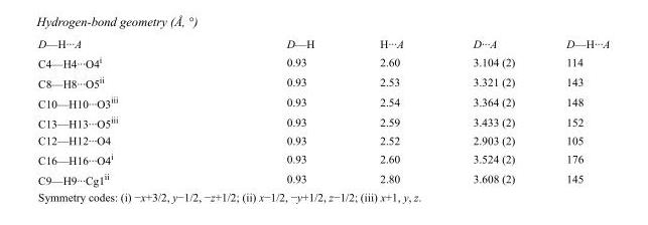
<table><tbody><tr><td>D—H···A</td><td>D—H</td><td>H···A</td><td>D···A</td><td>D—H···A</td></tr><tr><td>C4—H4···O4<sup>i</sup></td><td>0.93</td><td>2.60</td><td>3.104 (2)</td><td>114</td></tr><tr><td>C8—H8···O5<sup>ii</sup></td><td>0.93</td><td>2.53</td><td>3.321 (2)</td><td>143</td></tr><tr><td>C10—H10···O3<sup>iii</sup></td><td>0.93</td><td>2.54</td><td>3.364 (2)</td><td>148</td></tr><tr><td>C13—H13···O5<sup>iii</sup></td><td>0.93</td><td>2.59</td><td>3.433 (2)</td><td>152</td></tr><tr><td>C12—H12···O4</td><td>0.93</td><td>2.52</td><td>2.903 (2)</td><td>105</td></tr><tr><td>C16—H16···O4<sup>i</sup></td><td>0.93</td><td>2.60</td><td>3.524 (2)</td><td>176</td></tr><tr><td>C9—H9···Cg1<sup>ii</sup></td><td>0.93</td><td>2.80</td><td>3.608 (2)</td><td>145</td></tr></tbody></table>